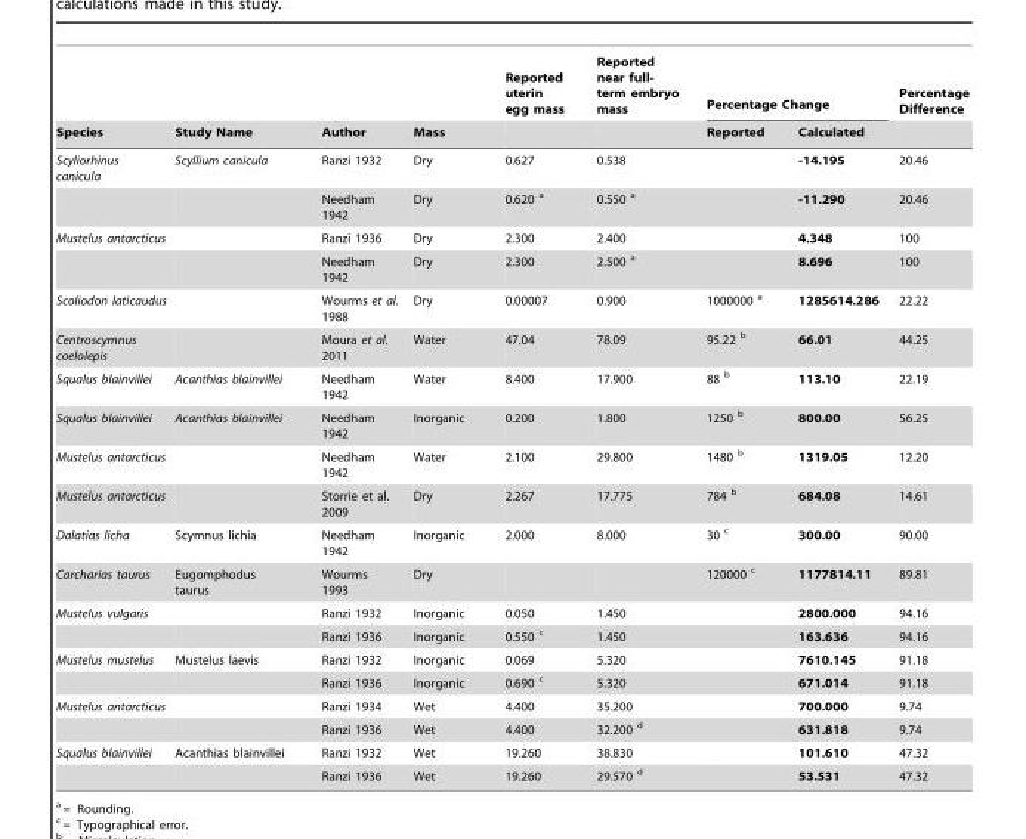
<table><thead><tr><td rowspan="2">Species</td><td rowspan="2">Study Name</td><td rowspan="2">Author</td><td rowspan="2">Mass</td><td rowspan="2">Reported uterin egg mass</td><td rowspan="2">Reported near full- term embryo mass</td><td colspan="2">Percentage Change</td><td rowspan="2">Percentage Difference</td></tr><tr><td>Reported</td><td>Calculated</td></tr></thead><tbody><tr><td rowspan="2">Scyliorhinus canicula</td><td>Scyllium canicula</td><td>Ranzi 1932</td><td>Dry</td><td>0.627</td><td>0.538</td><td></td><td>-14.195</td><td>20.46</td></tr><tr><td></td><td>Needham 1942</td><td>Dry</td><td>0.620 a</td><td>0.550 a</td><td></td><td>-11.290</td><td>20.46</td></tr><tr><td rowspan="2">Mustelus antarcticus</td><td></td><td>Ranzi 1936</td><td>Dry</td><td>2.300</td><td>2.400</td><td></td><td>4.348</td><td>100</td></tr><tr><td></td><td>Needham 1942</td><td>Dry</td><td>2.300</td><td>2.500 a</td><td></td><td>8.696</td><td>100</td></tr><tr><td>Scoliodon laticaudus</td><td></td><td>Wourms et al. 1988</td><td>Dry</td><td>0.00007</td><td>0.900</td><td>1000000 a</td><td>1285614.286</td><td>22.22</td></tr><tr><td>Centroscymnus coelolepis</td><td></td><td>Moura et al. 2011</td><td>Water</td><td>47.04</td><td>78.09</td><td>95.22 b</td><td>66.01</td><td>44.25</td></tr><tr><td>Squalus blainvillei</td><td>Acanthias blainvillei</td><td>Needham 1942</td><td>Water</td><td>8.400</td><td>17.900</td><td>88 b</td><td>113.10</td><td>22.19</td></tr><tr><td>Squalus blainvillei</td><td>Acanthias blainvillei</td><td>Needham 1942</td><td>Inorganic</td><td>0.200</td><td>1.800</td><td>1250 b</td><td>800.00</td><td>56.25</td></tr><tr><td>Mustelus antarcticus</td><td></td><td>Needham 1942</td><td>Water</td><td>2.100</td><td>29.800</td><td>1480 b</td><td>1319.05</td><td>12.20</td></tr><tr><td>Mustelus antarcticus</td><td></td><td>Storrie et al. 2009</td><td>Dry</td><td>2.267</td><td>17.775</td><td>784 b</td><td>684.08</td><td>14.61</td></tr><tr><td>Dalatias licha</td><td>Scymnus lichia</td><td>Needham 1942</td><td>Inorganic</td><td>2.000</td><td>8.000</td><td>30 c</td><td>300.00</td><td>90.00</td></tr><tr><td>Carcharias taurus</td><td>Eugomphodus taurus</td><td>Wourms 1993</td><td>Dry</td><td></td><td></td><td>120000 c</td><td>1177814.11</td><td>89.81</td></tr><tr><td rowspan="2">Mustelus vulgaris</td><td></td><td>Ranzi 1932</td><td>Inorganic</td><td>0.050</td><td>1.450</td><td></td><td>2800.000</td><td>94.16</td></tr><tr><td></td><td>Ranzi 1936</td><td>Inorganic</td><td>0.550 c</td><td>1.450</td><td></td><td>163.636</td><td>94.16</td></tr><tr><td rowspan="2">Mustelus mustelus</td><td>Mustelus laevis</td><td>Ranzi 1932</td><td>Inorganic</td><td>0.069</td><td>5.320</td><td></td><td>7610.145</td><td>91.18</td></tr><tr><td></td><td>Ranzi 1936</td><td>Inorganic</td><td>0.690 c</td><td>5.320</td><td></td><td>671.014</td><td>91.18</td></tr><tr><td rowspan="2">Mustelus antarcticus</td><td></td><td>Ranzi 1934</td><td>Wet</td><td>4.400</td><td>35.200</td><td></td><td>700.000</td><td>9.74</td></tr><tr><td></td><td>Ranzi 1936</td><td>Wet</td><td>4.400</td><td>32.200 d</td><td></td><td>631.818</td><td>9.74</td></tr><tr><td rowspan="2">Squalus blainvillei</td><td>Acanthias blainvillei</td><td>Ranzi 1932</td><td>Wet</td><td>19.260</td><td>38.830</td><td></td><td>101.610</td><td>47.32</td></tr><tr><td></td><td>Ranzi 1936</td><td>Wet</td><td>19.260</td><td>29.570 d</td><td></td><td>53.531</td><td>47.32</td></tr></tbody></table>